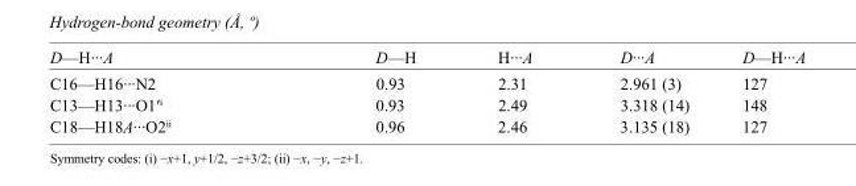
<table><tbody><tr><td>D—H···A</td><td>D—H</td><td>H···A</td><td>D···A</td><td>D—H···A</td></tr><tr><td>C16—H16···N2</td><td>0.93</td><td>2.31</td><td>2.961 (3)</td><td>127</td></tr><tr><td>C13—H13···O1′<sup>i</sup></td><td>0.93</td><td>2.49</td><td>3.318 (14)</td><td>148</td></tr><tr><td>C18—H18A···O2<sup>ii</sup></td><td>0.96</td><td>2.46</td><td>3.135 (18)</td><td>127</td></tr></tbody></table>